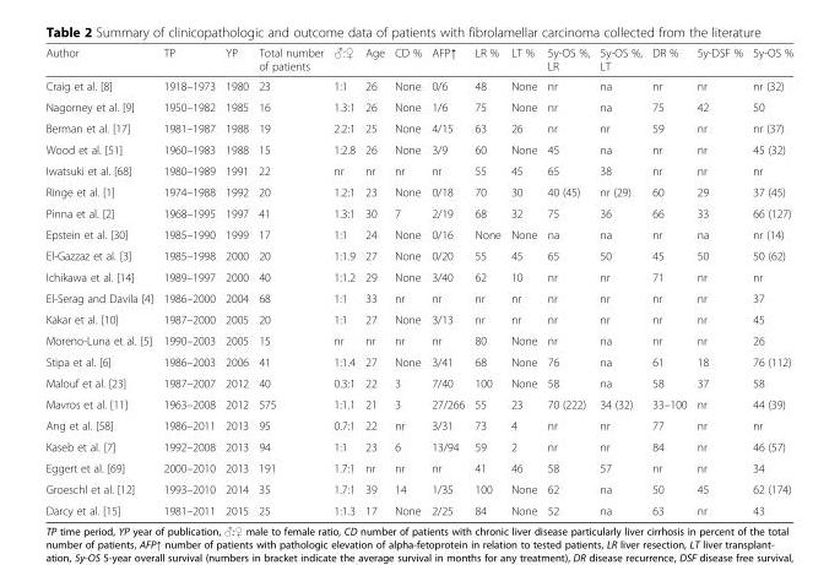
<table><thead><tr><td>Author</td><td>TP</td><td>YP</td><td>Total number of patients</td><td>♂:♀</td><td>Age</td><td>CD %</td><td>AFP↑</td><td>LR %</td><td>LT %</td><td>5y-OS %, LR</td><td>5y-OS %, LT</td><td>DR %</td><td>5y-DSF %</td><td>5y-OS %</td></tr></thead><tbody><tr><td>Craig et al. [8]</td><td>1918–1973</td><td>1980</td><td>23</td><td>1:1</td><td>26</td><td>None</td><td>0/6</td><td>48</td><td>None</td><td>nr</td><td>na</td><td>nr</td><td>nr</td><td>nr (32)</td></tr><tr><td>Nagorney et al. [9]</td><td>1950–1982</td><td>1985</td><td>16</td><td>1.3:1</td><td>26</td><td>None</td><td>1/6</td><td>75</td><td>None</td><td>nr</td><td>na</td><td>75</td><td>42</td><td>50</td></tr><tr><td>Berman et al. [17]</td><td>1981–1987</td><td>1988</td><td>19</td><td>2.2:1</td><td>25</td><td>None</td><td>4/15</td><td>63</td><td>26</td><td>nr</td><td>nr</td><td>59</td><td>nr</td><td>nr (37)</td></tr><tr><td>Wood et al. [51]</td><td>1960–1983</td><td>1988</td><td>15</td><td>1:2.8</td><td>26</td><td>None</td><td>3/9</td><td>60</td><td>None</td><td>45</td><td>na</td><td>nr</td><td>nr</td><td>45 (32)</td></tr><tr><td>Iwatsuki et al. [68]</td><td>1980–1989</td><td>1991</td><td>22</td><td>nr</td><td>nr</td><td>nr</td><td>nr</td><td>55</td><td>45</td><td>65</td><td>38</td><td>nr</td><td>nr</td><td>nr</td></tr><tr><td>Ringe et al. [1]</td><td>1974–1988</td><td>1992</td><td>20</td><td>1.2:1</td><td>23</td><td>None</td><td>0/18</td><td>70</td><td>30</td><td>40 (45)</td><td>nr (29)</td><td>60</td><td>29</td><td>37 (45)</td></tr><tr><td>Pinna et al. [2]</td><td>1968–1995</td><td>1997</td><td>41</td><td>1.3:1</td><td>30</td><td>7</td><td>2/19</td><td>68</td><td>32</td><td>75</td><td>36</td><td>66</td><td>33</td><td>66 (127)</td></tr><tr><td>Epstein et al. [30]</td><td>1985–1990</td><td>1999</td><td>17</td><td>1:1</td><td>24</td><td>None</td><td>0/16</td><td>None</td><td>None</td><td>na</td><td>na</td><td>nr</td><td>na</td><td>nr (14)</td></tr><tr><td>El-Gazzaz et al. [3]</td><td>1985–1998</td><td>2000</td><td>20</td><td>1:1.9</td><td>27</td><td>None</td><td>0/20</td><td>55</td><td>45</td><td>65</td><td>50</td><td>45</td><td>50</td><td>50 (62)</td></tr><tr><td>Ichikawa et al. [14]</td><td>1989–1997</td><td>2000</td><td>40</td><td>1:1.2</td><td>29</td><td>None</td><td>3/40</td><td>62</td><td>10</td><td>nr</td><td>nr</td><td>71</td><td>nr</td><td>nr</td></tr><tr><td>El-Serag and Davila [4]</td><td>1986–2000</td><td>2004</td><td>68</td><td>1:1</td><td>33</td><td>nr</td><td>nr</td><td>nr</td><td>nr</td><td>nr</td><td>nr</td><td>nr</td><td>nr</td><td>37</td></tr><tr><td>Kakar et al. [10]</td><td>1987–2000</td><td>2005</td><td>20</td><td>1:1</td><td>27</td><td>None</td><td>3/13</td><td>nr</td><td>nr</td><td>nr</td><td>nr</td><td>nr</td><td>nr</td><td>45</td></tr><tr><td>Moreno-Luna et al. [5]</td><td>1990–2003</td><td>2005</td><td>15</td><td>nr</td><td>nr</td><td>nr</td><td>nr</td><td>80</td><td>None</td><td>nr</td><td>na</td><td>nr</td><td>nr</td><td>26</td></tr><tr><td>Stipa et al. [6]</td><td>1986–2003</td><td>2006</td><td>41</td><td>1:1.4</td><td>27</td><td>None</td><td>3/41</td><td>68</td><td>None</td><td>76</td><td>na</td><td>61</td><td>18</td><td>76 (112)</td></tr><tr><td>Malouf et al. [23]</td><td>1987–2007</td><td>2012</td><td>40</td><td>0.3:1</td><td>22</td><td>3</td><td>7/40</td><td>100</td><td>None</td><td>58</td><td>na</td><td>58</td><td>37</td><td>58</td></tr><tr><td>Mavros et al. [11]</td><td>1963–2008</td><td>2012</td><td>575</td><td>1:1.1</td><td>21</td><td>3</td><td>27/266</td><td>55</td><td>23</td><td>70 (222)</td><td>34 (32)</td><td>33–100</td><td>nr</td><td>44 (39)</td></tr><tr><td>Ang et al. [58]</td><td>1986–2011</td><td>2013</td><td>95</td><td>0.7:1</td><td>22</td><td>nr</td><td>3/31</td><td>73</td><td>4</td><td>nr</td><td>nr</td><td>77</td><td>nr</td><td>nr</td></tr><tr><td>Kaseb et al. [7]</td><td>1992–2008</td><td>2013</td><td>94</td><td>1:1</td><td>23</td><td>6</td><td>13/94</td><td>59</td><td>2</td><td>nr</td><td>nr</td><td>84</td><td>nr</td><td>46 (57)</td></tr><tr><td>Eggert et al. [69]</td><td>2000–2010</td><td>2013</td><td>191</td><td>1.7:1</td><td>nr</td><td>nr</td><td>nr</td><td>41</td><td>46</td><td>58</td><td>57</td><td>nr</td><td>nr</td><td>34</td></tr><tr><td>Groeschl et al. [12]</td><td>1993–2010</td><td>2014</td><td>35</td><td>1.7:1</td><td>39</td><td>14</td><td>1/35</td><td>100</td><td>None</td><td>62</td><td>na</td><td>50</td><td>45</td><td>62 (174)</td></tr><tr><td>Darcy et al. [15]</td><td>1981–2011</td><td>2015</td><td>25</td><td>1:1.3</td><td>17</td><td>None</td><td>2/25</td><td>84</td><td>None</td><td>52</td><td>na</td><td>63</td><td>nr</td><td>43</td></tr></tbody></table>